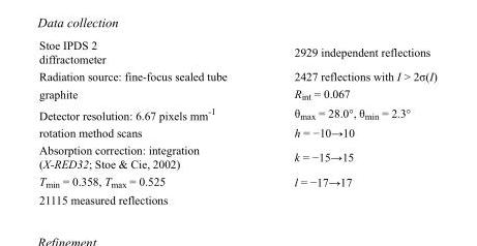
<table><tbody><tr><td>Stoe IPDS 2 diffractometer</td><td>2929 independent reflections</td></tr><tr><td>Radiation source: fine-focus sealed tube</td><td>2427 reflections with I &gt; 2σ(I)</td></tr><tr><td>graphite</td><td>R<sub>int</sub> = 0.067</td></tr><tr><td>Detector resolution: 6.67 pixels mm<sup>-1</sup></td><td>θ<sub>max</sub> = 28.0°, θ<sub>min</sub> = 2.3°</td></tr><tr><td>rotation method scans</td><td>h = −10→10</td></tr><tr><td>Absorption correction: integration (X-RED32; Stoe &amp; Cie, 2002)</td><td>k = −15→15</td></tr><tr><td>T<sub>min</sub> = 0.358, T<sub>max</sub> = 0.525</td><td>l = −17→17</td></tr><tr><td>21115 measured reflections</td><td></td></tr></tbody></table>